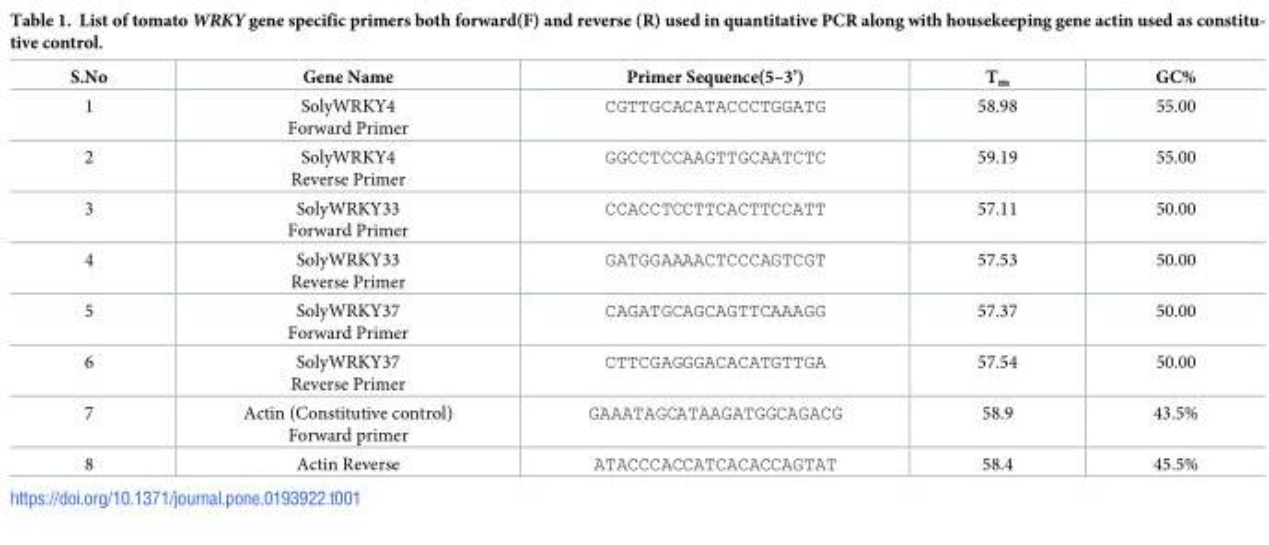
<table><thead><tr><td>S.No</td><td>Gene Name</td><td>Primer Sequence(5–3’)</td><td>T<sub>m</sub></td><td>GC%</td></tr></thead><tbody><tr><td>1</td><td>SolyWRKY4 Forward Primer</td><td>CGTTGCACATACCCTGGATG</td><td>58.98</td><td>55.00</td></tr><tr><td>2</td><td>SolyWRKY4 Reverse Primer</td><td>GGCCTCCAAGTTGCAATCTC</td><td>59.19</td><td>55.00</td></tr><tr><td>3</td><td>SolyWRKY33 Forward Primer</td><td>CCACCTCCTTCACTTCCATT</td><td>57.11</td><td>50.00</td></tr><tr><td>4</td><td>SolyWRKY33 Reverse Primer</td><td>GATGGAAAACTCCCAGTCGT</td><td>57.53</td><td>50.00</td></tr><tr><td>5</td><td>SolyWRKY37 Forward Primer</td><td>CAGATGCAGCAGTTCAAAGG</td><td>57.37</td><td>50.00</td></tr><tr><td>6</td><td>SolyWRKY37 Reverse Primer</td><td>CTTCGAGGGACACATGTTGA</td><td>57.54</td><td>50.00</td></tr><tr><td>7</td><td>Actin (Constitutive control) Forward primer</td><td>GAAATAGCATAAGATGGCAGACG</td><td>58.9</td><td>43.5%</td></tr><tr><td>8</td><td>Actin Reverse</td><td>ATACCCACCATCACACCAGTAT</td><td>58.4</td><td>45.5%</td></tr></tbody></table>